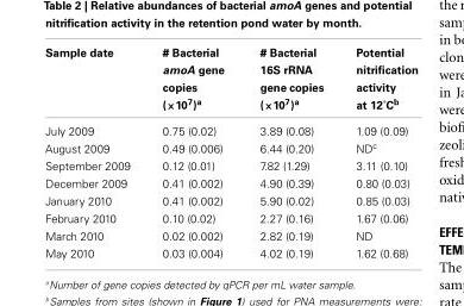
<table><thead><tr><td>Sample date</td><td># Bacterial amoA gene copies (×10<sup>7</sup>)<sup>a</sup></td><td># Bacterial 16S rRNA gene copies (×10<sup>7</sup>)<sup>a</sup></td><td>Potential nitrification activity at 12˚Cb</td></tr></thead><tbody><tr><td>July 2009</td><td>0.75 (0.02)</td><td>3.89 (0.08)</td><td>1.09 (0.09)</td></tr><tr><td>August 2009</td><td>0.49 (0.006)</td><td>6.44 (0.20)</td><td>ND<sup>c</sup></td></tr><tr><td>September 2009</td><td>0.12 (0.01)</td><td>7.82 (1.29)</td><td>3.11 (0.10)</td></tr><tr><td>December 2009</td><td>0.41 (0.002)</td><td>4.90 (0.39)</td><td>0.80 (0.03)</td></tr><tr><td>January 2010</td><td>0.41 (0.002)</td><td>5.90 (0.02)</td><td>0.85 (0.03)</td></tr><tr><td>February 2010</td><td>0.10 (0.02)</td><td>2.27 (0.16)</td><td>1.67 (0.06)</td></tr><tr><td>March 2010</td><td>0.02 (0.002)</td><td>2.82 (0.19)</td><td>ND</td></tr><tr><td>May 2010</td><td>0.03 (0.004)</td><td>4.02 (0.19)</td><td>1.62 (0.68)</td></tr></tbody></table>